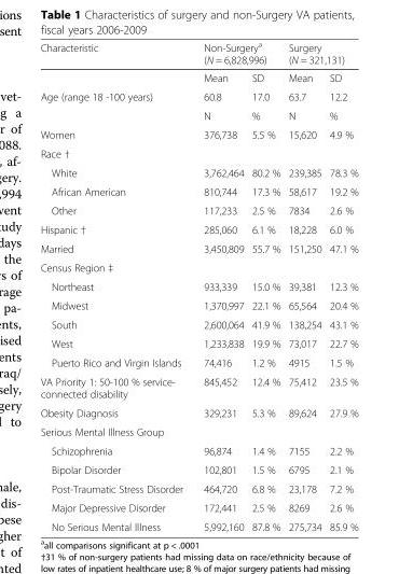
<table><thead><tr><td rowspan="2">Characteristic</td><td colspan="2">Non-Surgery<sup>a</sup> (N = 6,828,996)</td><td colspan="2">Surgery (N = 321,131)</td></tr><tr><td>Mean</td><td>SD</td><td>Mean</td><td>SD</td></tr></thead><tbody><tr><td rowspan="2">Age (range 18 -100 years)</td><td>60.8</td><td>17.0</td><td>63.7</td><td>12.2</td></tr><tr><td>N</td><td>%</td><td>N</td><td>%</td></tr><tr><td>Women</td><td>376,738</td><td>5.5 %</td><td>15,620</td><td>4.9 %</td></tr><tr><td colspan="5">Race †</td></tr><tr><td>White</td><td>3,762,464</td><td>80.2 %</td><td>239,385</td><td>78.3 %</td></tr><tr><td>African American</td><td>810,744</td><td>17.3 %</td><td>58,617</td><td>19.2 %</td></tr><tr><td>Other</td><td>117,233</td><td>2.5 %</td><td>7834</td><td>2.6 %</td></tr><tr><td>Hispanic †</td><td>285,060</td><td>6.1 %</td><td>18,228</td><td>6.0 %</td></tr><tr><td>Married</td><td>3,450,809</td><td>55.7 %</td><td>151,250</td><td>47.1 %</td></tr><tr><td colspan="5">Census Region ‡</td></tr><tr><td>Northeast</td><td>933,339</td><td>15.0 %</td><td>39,381</td><td>12.3 %</td></tr><tr><td>Midwest</td><td>1,370,997</td><td>22.1 %</td><td>65,564</td><td>20.4 %</td></tr><tr><td>South</td><td>2,600,064</td><td>41.9 %</td><td>138,254</td><td>43.1 %</td></tr><tr><td>West</td><td>1,233,838</td><td>19.9 %</td><td>73,017</td><td>22.7 %</td></tr><tr><td>Puerto Rico and Virgin Islands</td><td>74,416</td><td>1.2 %</td><td>4915</td><td>1.5 %</td></tr><tr><td>VA Priority 1: 50-100 % service- connected disability</td><td>845,452</td><td>12.4 %</td><td>75,412</td><td>23.5 %</td></tr><tr><td>Obesity Diagnosis</td><td>329,231</td><td>5.3 %</td><td>89,624</td><td>27.9 %</td></tr><tr><td colspan="5">Serious Mental Illness Group</td></tr><tr><td>Schizophrenia</td><td>96,874</td><td>1.4 %</td><td>7155</td><td>2.2 %</td></tr><tr><td>Bipolar Disorder</td><td>102,801</td><td>1.5 %</td><td>6795</td><td>2.1 %</td></tr><tr><td>Post-Traumatic Stress Disorder</td><td>464,720</td><td>6.8 %</td><td>23,178</td><td>7.2 %</td></tr><tr><td>Major Depressive Disorder</td><td>172,441</td><td>2.5 %</td><td>8269</td><td>2.6 %</td></tr><tr><td>No Serious Mental Illness</td><td>5,992,160</td><td>87.8 %</td><td>275,734</td><td>85.9 %</td></tr></tbody></table>